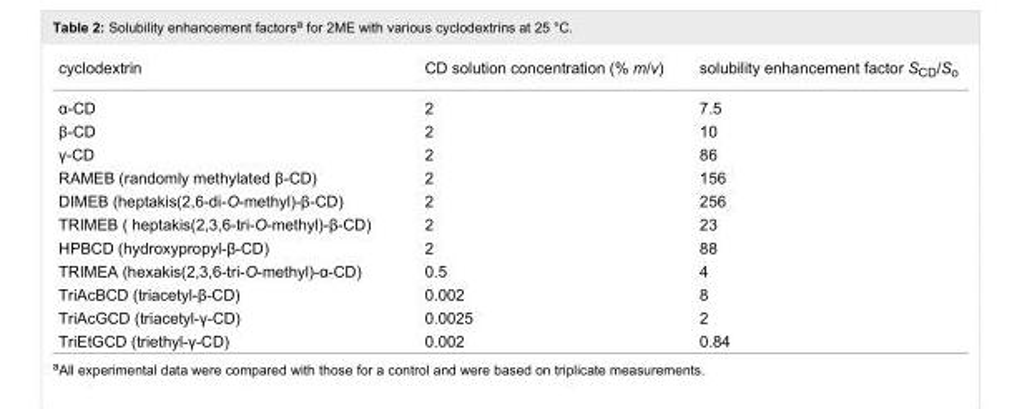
<table><tbody><tr><td>cyclodextrin</td><td>CD solution concentration (% m/v)</td><td>solubility enhancement factor S<sub>CD</sub>/S<sub>o</sub></td></tr><tr><td>α-CD</td><td>2</td><td>7.5</td></tr><tr><td>β-CD</td><td>2</td><td>10</td></tr><tr><td>γ-CD</td><td>2</td><td>86</td></tr><tr><td>RAMEB (randomly methylated β-CD)</td><td>2</td><td>156</td></tr><tr><td>DIMEB (heptakis(2,6-di-O-methyl)-β-CD)</td><td>2</td><td>256</td></tr><tr><td>TRIMEB ( heptakis(2,3,6-tri-O-methyl)-β-CD)</td><td>2</td><td>23</td></tr><tr><td>HPBCD (hydroxypropyl-β-CD)</td><td>2</td><td>88</td></tr><tr><td>TRIMEA (hexakis(2,3,6-tri-O-methyl)-α-CD)</td><td>0.5</td><td>4</td></tr><tr><td>TriAcBCD (triacetyl-β-CD)</td><td>0.002</td><td>8</td></tr><tr><td>TriAcGCD (triacetyl-γ-CD)</td><td>0.0025</td><td>2</td></tr><tr><td>TriEtGCD (triethyl-γ-CD)</td><td>0.002</td><td>0.84</td></tr></tbody></table>